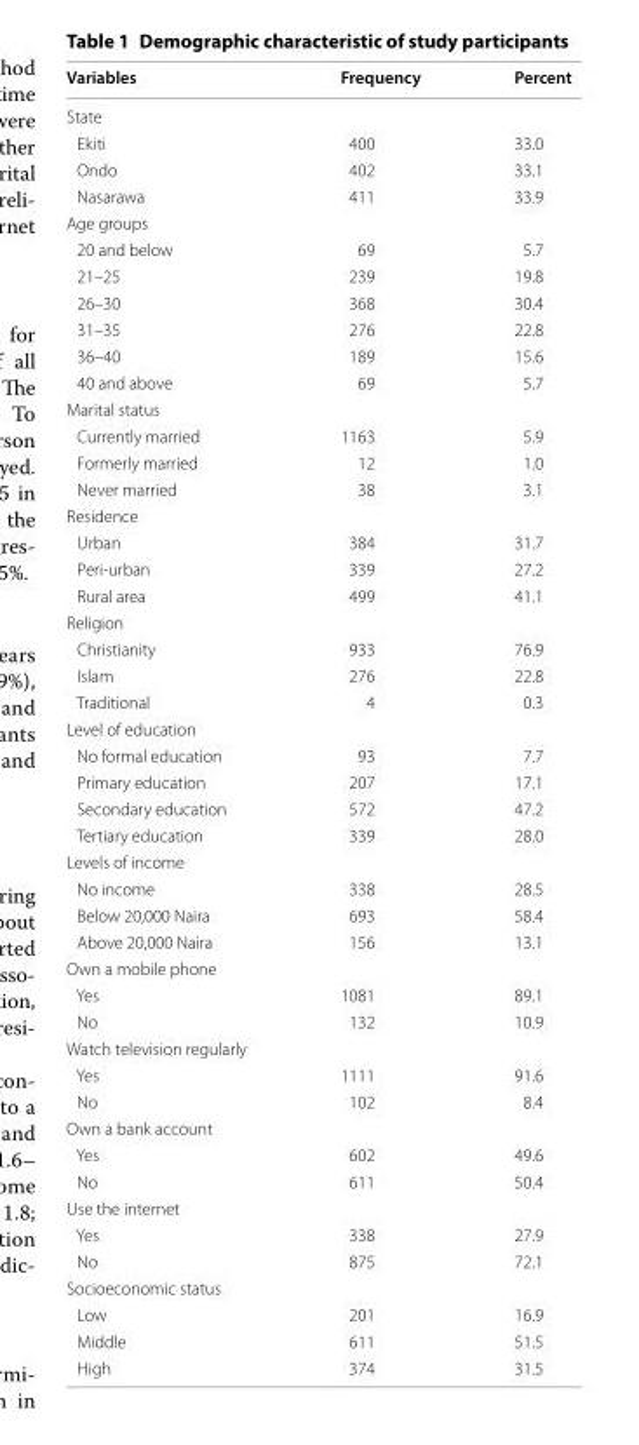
<table><thead><tr><td>Variables</td><td>Frequency</td><td>Percent</td></tr></thead><tbody><tr><td colspan="3">State</td></tr><tr><td>Ekiti</td><td>400</td><td>33.0</td></tr><tr><td>Ondo</td><td>402</td><td>33.1</td></tr><tr><td>Nasarawa</td><td>411</td><td>33.9</td></tr><tr><td colspan="3">Age groups</td></tr><tr><td>20 and below</td><td>69</td><td>5.7</td></tr><tr><td>21–25</td><td>239</td><td>19.8</td></tr><tr><td>26–30</td><td>368</td><td>30.4</td></tr><tr><td>31–35</td><td>276</td><td>22.8</td></tr><tr><td>36–40</td><td>189</td><td>15.6</td></tr><tr><td>40 and above</td><td>69</td><td>5.7</td></tr><tr><td colspan="3">Marital status</td></tr><tr><td>Currently married</td><td>1163</td><td>5.9</td></tr><tr><td>Formerly married</td><td>12</td><td>1.0</td></tr><tr><td>Never married</td><td>38</td><td>3.1</td></tr><tr><td colspan="3">Residence</td></tr><tr><td>Urban</td><td>384</td><td>31.7</td></tr><tr><td>Peri-urban</td><td>339</td><td>27.2</td></tr><tr><td>Rural area</td><td>499</td><td>41.1</td></tr><tr><td colspan="3">Religion</td></tr><tr><td>Christianity</td><td>933</td><td>76.9</td></tr><tr><td>Islam</td><td>276</td><td>22.8</td></tr><tr><td>Traditional</td><td>4</td><td>0.3</td></tr><tr><td colspan="3">Level of education</td></tr><tr><td>No formal education</td><td>93</td><td>7.7</td></tr><tr><td>Primary education</td><td>207</td><td>17.1</td></tr><tr><td>Secondary education</td><td>572</td><td>47.2</td></tr><tr><td>Tertiary education</td><td>339</td><td>28.0</td></tr><tr><td colspan="3">Levels of income</td></tr><tr><td>No income</td><td>338</td><td>28.5</td></tr><tr><td>Below 20,000 Naira</td><td>693</td><td>58.4</td></tr><tr><td>Above 20,000 Naira</td><td>156</td><td>13.1</td></tr><tr><td colspan="3">Own a mobile phone</td></tr><tr><td>Yes</td><td>1081</td><td>89.1</td></tr><tr><td>No</td><td>132</td><td>10.9</td></tr><tr><td colspan="3">Watch television regularly</td></tr><tr><td>Yes</td><td>1111</td><td>91.6</td></tr><tr><td>No</td><td>102</td><td>8.4</td></tr><tr><td colspan="3">Own a bank account</td></tr><tr><td>Yes</td><td>602</td><td>49.6</td></tr><tr><td>No</td><td>611</td><td>50.4</td></tr><tr><td colspan="3">Use the internet</td></tr><tr><td>Yes</td><td>338</td><td>27.9</td></tr><tr><td>No</td><td>875</td><td>72.1</td></tr><tr><td colspan="3">Socioeconomic status</td></tr><tr><td>Low</td><td>201</td><td>16.9</td></tr><tr><td>Middle</td><td>611</td><td>51.5</td></tr><tr><td>High</td><td>374</td><td>31.5</td></tr></tbody></table>